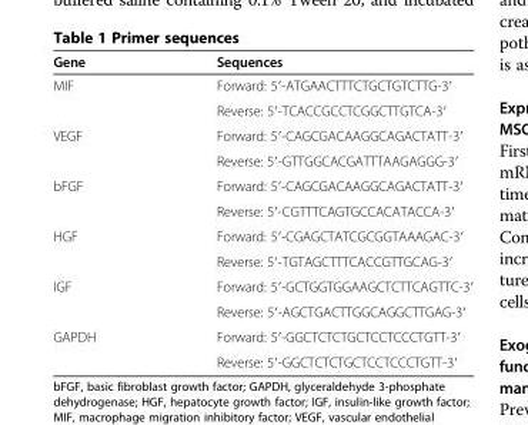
<table><thead><tr><td>Gene</td><td>Sequences</td></tr></thead><tbody><tr><td rowspan="2">MIF</td><td>Forward: 5′-ATGAACTTTCTGCTGTCTTG-3′</td></tr><tr><td>Reverse: 5′-TCACCGCCTCGGCTTGTCA-3′</td></tr><tr><td rowspan="2">VEGF</td><td>Forward: 5′-CAGCGACAAGGCAGACTATT-3′</td></tr><tr><td>Reverse: 5′-GTTGGCACGATTTAAGAGGG-3′</td></tr><tr><td rowspan="2">bFGF</td><td>Forward: 5′-CAGCGACAAGGCAGACTATT-3′</td></tr><tr><td>Reverse: 5′-CGTTTCAGTGCCACATACCA-3′</td></tr><tr><td rowspan="2">HGF</td><td>Forward: 5′-CGAGCTATCGCGGTAAAGAC-3′</td></tr><tr><td>Reverse: 5′-TGTAGCTTTCACCGTTGCAG-3′</td></tr><tr><td rowspan="2">IGF</td><td>Forward: 5′-GCTGGTGGAAGCTCTTCAGTTC-3′</td></tr><tr><td>Reverse: 5′-AGCTGACTTGGCAGGCTTGAG-3′</td></tr><tr><td rowspan="2">GAPDH</td><td>Forward: 5′-GGCTCTCTGCTCCTCCCTGTT-3′</td></tr><tr><td>Reverse: 5′-GGCTCTCTGCTCCTCCCTGTT-3′</td></tr></tbody></table>